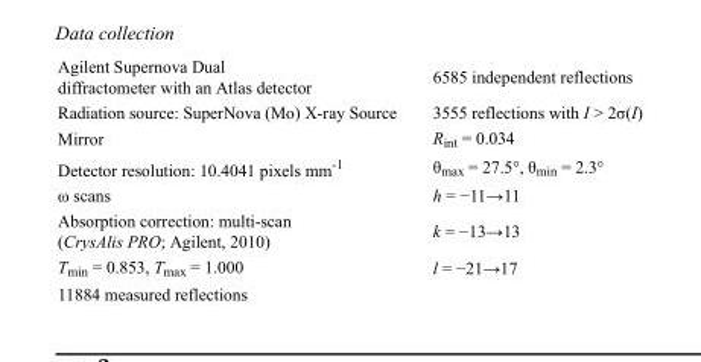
<table><tbody><tr><td>Agilent Supernova Dual diffractometer with an Atlas detector</td><td>6585 independent reflections</td></tr><tr><td>Radiation source: SuperNova (Mo) X-ray Source</td><td>3555 reflections with I &gt; 2σ(I)</td></tr><tr><td>Mirror</td><td>R<sub>int</sub> = 0.034</td></tr><tr><td>Detector resolution: 10.4041 pixels mm<sup>-1</sup></td><td>θ<sub>max</sub> = 27.5°, θ<sub>min</sub> = 2.3°</td></tr><tr><td>ω scans</td><td>h = −11→11</td></tr><tr><td>Absorption correction: multi-scan (CrysAlis PRO; Agilent, 2010)</td><td>k = −13→13</td></tr><tr><td>T<sub>min</sub> = 0.853, T<sub>max</sub> = 1.000</td><td>l = −21→17</td></tr><tr><td>11884 measured reflections</td><td></td></tr></tbody></table>